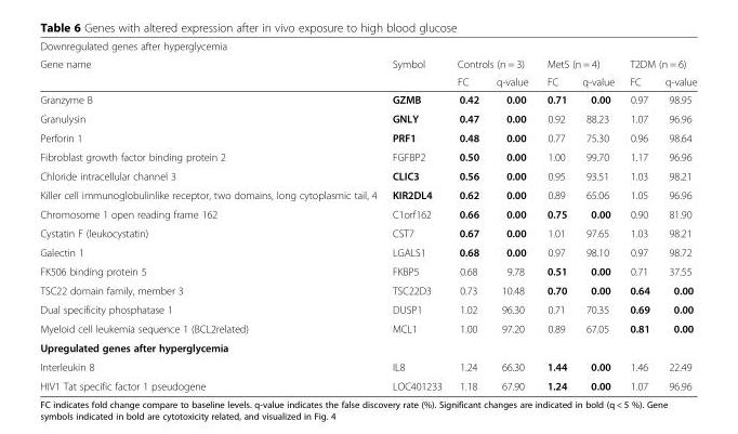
<table><thead><tr><td colspan="2">Downregulated genes after hyperglycemia</td><td></td><td></td><td></td><td></td><td></td><td></td></tr><tr><td rowspan="2">Gene name</td><td rowspan="2">Symbol</td><td colspan="2">Controls (n = 3)</td><td colspan="2">MetS (n = 4)</td><td colspan="2">T2DM (n = 6)</td></tr><tr><td>FC</td><td>q-value</td><td>FC</td><td>q-value</td><td>FC</td><td>q-value</td></tr></thead><tbody><tr><td>Granzyme B</td><td>GZMB</td><td>0.42</td><td>0.00</td><td>0.71</td><td>0.00</td><td>0.97</td><td>98.95</td></tr><tr><td>Granulysin</td><td>GNLY</td><td>0.47</td><td>0.00</td><td>0.92</td><td>88.23</td><td>1.07</td><td>96.96</td></tr><tr><td>Perforin 1</td><td>PRF1</td><td>0.48</td><td>0.00</td><td>0.77</td><td>75.30</td><td>0.96</td><td>98.64</td></tr><tr><td>Fibroblast growth factor binding protein 2</td><td>FGFBP2</td><td>0.50</td><td>0.00</td><td>1.00</td><td>99.70</td><td>1.17</td><td>96.96</td></tr><tr><td>Chloride intracellular channel 3</td><td>CLIC3</td><td>0.56</td><td>0.00</td><td>0.95</td><td>93.51</td><td>1.03</td><td>98.21</td></tr><tr><td>Killer cell immunoglobulinlike receptor, two domains, long cytoplasmic tail, 4</td><td>KIR2DL4</td><td>0.62</td><td>0.00</td><td>0.89</td><td>65.06</td><td>1.05</td><td>96.96</td></tr><tr><td>Chromosome 1 open reading frame 162</td><td>C1orf162</td><td>0.66</td><td>0.00</td><td>0.75</td><td>0.00</td><td>0.90</td><td>81.90</td></tr><tr><td>Cystatin F (leukocystatin)</td><td>CST7</td><td>0.67</td><td>0.00</td><td>1.01</td><td>97.65</td><td>1.03</td><td>98.21</td></tr><tr><td>Galectin 1</td><td>LGALS1</td><td>0.68</td><td>0.00</td><td>0.97</td><td>98.10</td><td>0.97</td><td>98.72</td></tr><tr><td>FK506 binding protein 5</td><td>FKBP5</td><td>0.68</td><td>9.78</td><td>0.51</td><td>0.00</td><td>0.71</td><td>37.55</td></tr><tr><td>TSC22 domain family, member 3</td><td>TSC22D3</td><td>0.73</td><td>10.48</td><td>0.70</td><td>0.00</td><td>0.64</td><td>0.00</td></tr><tr><td>Dual specificity phosphatase 1</td><td>DUSP1</td><td>1.02</td><td>96.30</td><td>0.71</td><td>70.35</td><td>0.69</td><td>0.00</td></tr><tr><td>Myeloid cell leukemia sequence 1 (BCL2related)</td><td>MCL1</td><td>1.00</td><td>97.20</td><td>0.89</td><td>67.05</td><td>0.81</td><td>0.00</td></tr><tr><td colspan="8">Upregulated genes after hyperglycemia</td></tr><tr><td>Interleukin 8</td><td>IL8</td><td>1.24</td><td>66.30</td><td>1.44</td><td>0.00</td><td>1.46</td><td>22.49</td></tr><tr><td>HIV1 Tat specific factor 1 pseudogene</td><td>LOC401233</td><td>1.18</td><td>67.90</td><td>1.24</td><td>0.00</td><td>1.07</td><td>96.96</td></tr></tbody></table>